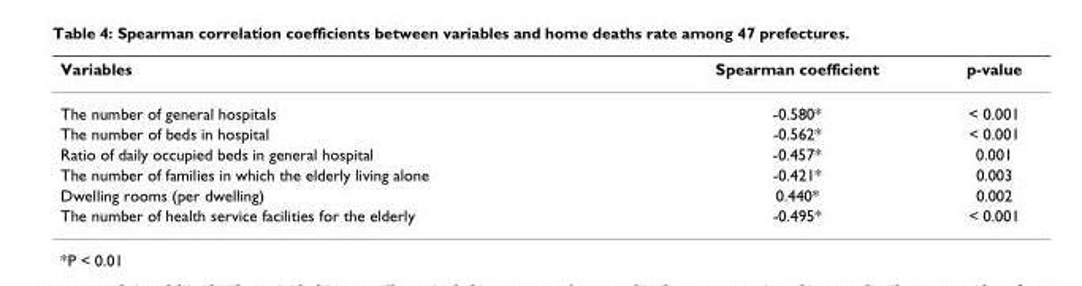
<table><thead><tr><td>Variables</td><td>Spearman coefficient</td><td>p-value</td></tr></thead><tbody><tr><td>The number of general hospitals</td><td>-0.580*</td><td>&lt; 0.001</td></tr><tr><td>The number of beds in hospital</td><td>-0.562*</td><td>&lt; 0.001</td></tr><tr><td>Ratio of daily occupied beds in general hospital</td><td>-0.457*</td><td>0.001</td></tr><tr><td>The number of families in which the elderly living alone</td><td>-0.421*</td><td>0.003</td></tr><tr><td>Dwelling rooms (per dwelling)</td><td>0.440*</td><td>0.002</td></tr><tr><td>The number of health service facilities for the elderly</td><td>-0.495*</td><td>&lt; 0.001</td></tr></tbody></table>